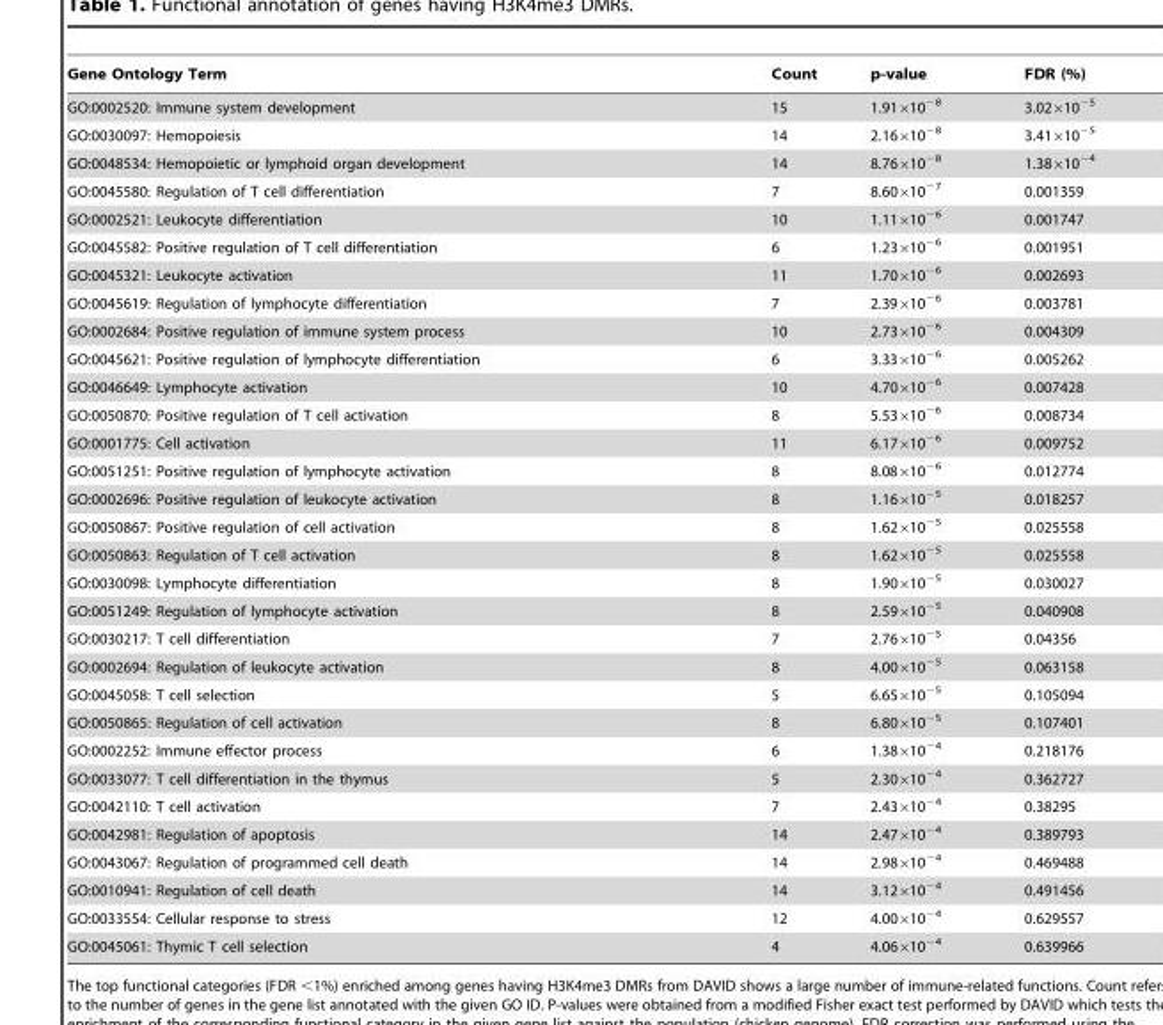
<table><thead><tr><td>Gene Ontology Term</td><td>Count</td><td>p-value</td><td>FDR (%)</td></tr></thead><tbody><tr><td>GO:0002520: Immune system development</td><td>15</td><td>1.91×10<sup>−8</sup></td><td>3.02×10<sup>−5</sup></td></tr><tr><td>GO:0030097: Hemopoiesis</td><td>14</td><td>2.16×10<sup>−8</sup></td><td>3.41×10<sup>−5</sup></td></tr><tr><td>GO:0048534: Hemopoietic or lymphoid organ development</td><td>14</td><td>8.76×10<sup>−8</sup></td><td>1.38×10<sup>−4</sup></td></tr><tr><td>GO:0045580: Regulation of T cell differentiation</td><td>7</td><td>8.60×10<sup>−7</sup></td><td>0.001359</td></tr><tr><td>GO:0002521: Leukocyte differentiation</td><td>10</td><td>1.11×10<sup>−6</sup></td><td>0.001747</td></tr><tr><td>GO:0045582: Positive regulation of T cell differentiation</td><td>6</td><td>1.23×10<sup>−6</sup></td><td>0.001951</td></tr><tr><td>GO:0045321: Leukocyte activation</td><td>11</td><td>1.70×10<sup>−6</sup></td><td>0.002693</td></tr><tr><td>GO:0045619: Regulation of lymphocyte differentiation</td><td>7</td><td>2.39×10<sup>−6</sup></td><td>0.003781</td></tr><tr><td>GO:0002684: Positive regulation of immune system process</td><td>10</td><td>2.73×10<sup>−6</sup></td><td>0.004309</td></tr><tr><td>GO:0045621: Positive regulation of lymphocyte differentiation</td><td>6</td><td>3.33×10<sup>−6</sup></td><td>0.005262</td></tr><tr><td>GO:0046649: Lymphocyte activation</td><td>10</td><td>4.70×10<sup>−6</sup></td><td>0.007428</td></tr><tr><td>GO:0050870: Positive regulation of T cell activation</td><td>8</td><td>5.53×10<sup>−6</sup></td><td>0.008734</td></tr><tr><td>GO:0001775: Cell activation</td><td>11</td><td>6.17×10<sup>−6</sup></td><td>0.009752</td></tr><tr><td>GO:0051251: Positive regulation of lymphocyte activation</td><td>8</td><td>8.08×10<sup>−6</sup></td><td>0.012774</td></tr><tr><td>GO:0002696: Positive regulation of leukocyte activation</td><td>8</td><td>1.16×10<sup>−5</sup></td><td>0.018257</td></tr><tr><td>GO:0050867: Positive regulation of cell activation</td><td>8</td><td>1.62×10<sup>−5</sup></td><td>0.025558</td></tr><tr><td>GO:0050863: Regulation of T cell activation</td><td>8</td><td>1.62×10<sup>−5</sup></td><td>0.025558</td></tr><tr><td>GO:0030098: Lymphocyte differentiation</td><td>8</td><td>1.90×10<sup>−5</sup></td><td>0.030027</td></tr><tr><td>GO:0051249: Regulation of lymphocyte activation</td><td>8</td><td>2.59×10<sup>−5</sup></td><td>0.040908</td></tr><tr><td>GO:0030217: T cell differentiation</td><td>7</td><td>2.76×10<sup>−5</sup></td><td>0.04356</td></tr><tr><td>GO:0002694: Regulation of leukocyte activation</td><td>8</td><td>4.00×10<sup>−5</sup></td><td>0.063158</td></tr><tr><td>GO:0045058: T cell selection</td><td>5</td><td>6.65×10<sup>−5</sup></td><td>0.105094</td></tr><tr><td>GO:0050865: Regulation of cell activation</td><td>8</td><td>6.80×10<sup>−5</sup></td><td>0.107401</td></tr><tr><td>GO:0002252: Immune effector process</td><td>6</td><td>1.38×10<sup>−4</sup></td><td>0.218176</td></tr><tr><td>GO:0033077: T cell differentiation in the thymus</td><td>5</td><td>2.30×10<sup>−4</sup></td><td>0.362727</td></tr><tr><td>GO:0042110: T cell activation</td><td>7</td><td>2.43×10<sup>−4</sup></td><td>0.38295</td></tr><tr><td>GO:0042981: Regulation of apoptosis</td><td>14</td><td>2.47×10<sup>−4</sup></td><td>0.389793</td></tr><tr><td>GO:0043067: Regulation of programmed cell death</td><td>14</td><td>2.98×10<sup>−4</sup></td><td>0.469488</td></tr><tr><td>GO:0010941: Regulation of cell death</td><td>14</td><td>3.12×10<sup>−4</sup></td><td>0.491456</td></tr><tr><td>GO:0033554: Cellular response to stress</td><td>12</td><td>4.00×10<sup>−4</sup></td><td>0.629557</td></tr><tr><td>GO:0045061: Thymic T cell selection</td><td>4</td><td>4.06×10<sup>−4</sup></td><td>0.639966</td></tr></tbody></table>